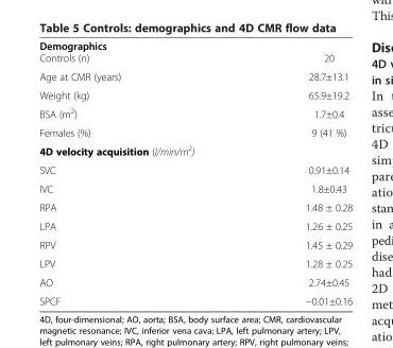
<table><thead><tr><td>Demographics</td><td></td></tr></thead><tbody><tr><td>Controls (n)</td><td>20</td></tr><tr><td>Age at CMR (years)</td><td>28.7±13.1</td></tr><tr><td>Weight (kg)</td><td>65.9±19.2</td></tr><tr><td>BSA (m<sup>2</sup>)</td><td>1.7±0.4</td></tr><tr><td>Females (%)</td><td>9 (41 %)</td></tr><tr><td colspan="2">4D velocity acquisition (l/min/m<sup>2</sup>)</td></tr><tr><td>SVC</td><td>0.91±0.14</td></tr><tr><td>IVC</td><td>1.8±0.43</td></tr><tr><td>RPA</td><td>1.48 ± 0.28</td></tr><tr><td>LPA</td><td>1.26 ± 0.25</td></tr><tr><td>RPV</td><td>1.45 ± 0.29</td></tr><tr><td>LPV</td><td>1.28 ± 0.25</td></tr><tr><td>AO</td><td>2.74±0.45</td></tr><tr><td>SPCF</td><td>−0.01±0.16</td></tr></tbody></table>